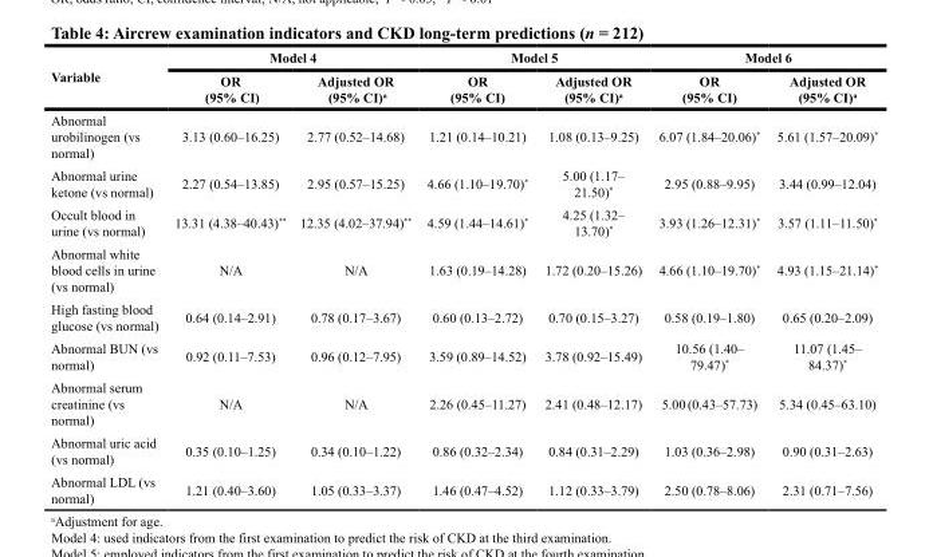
<table><thead><tr><td rowspan="2">Variable</td><td colspan="2">Model 4</td><td colspan="2">Model 5</td><td colspan="2">Model 6</td></tr><tr><td>OR (95% CI)</td><td>Adjusted OR (95% CI)a</td><td>OR (95% CI)</td><td>Adjusted OR (95% CI)a</td><td>OR (95% CI)</td><td>Adjusted OR (95% CI)a</td></tr></thead><tbody><tr><td>Abnormal urobilinogen (vs normal)</td><td>3.13 (0.60–16.25)</td><td>2.77 (0.52–14.68)</td><td>1.21 (0.14–10.21)</td><td>1.08 (0.13–9.25)</td><td>6.07 (1.84–20.06)*</td><td>5.61 (1.57–20.09)*</td></tr><tr><td>Abnormal urine ketone (vs normal)</td><td>2.27 (0.54–13.85)</td><td>2.95 (0.57–15.25)</td><td>4.66 (1.10–19.70)*</td><td>5.00 (1.17– 21.50)*</td><td>2.95 (0.88–9.95)</td><td>3.44 (0.99–12.04)</td></tr><tr><td>Occult blood in urine (vs normal)</td><td>13.31 (4.38–40.43)**</td><td>12.35 (4.02–37.94)**</td><td>4.59 (1.44–14.61)*</td><td>4.25 (1.32– 13.70)*</td><td>3.93 (1.26–12.31)*</td><td>3.57 (1.11–11.50)*</td></tr><tr><td>Abnormal white blood cells in urine (vs normal)</td><td>N/A</td><td>N/A</td><td>1.63 (0.19–14.28)</td><td>1.72 (0.20–15.26)</td><td>4.66 (1.10–19.70)*</td><td>4.93 (1.15–21.14)*</td></tr><tr><td>High fasting blood glucose (vs normal)</td><td>0.64 (0.14–2.91)</td><td>0.78 (0.17–3.67)</td><td>0.60 (0.13–2.72)</td><td>0.70 (0.15–3.27)</td><td>0.58 (0.19–1.80)</td><td>0.65 (0.20–2.09)</td></tr><tr><td>Abnormal BUN (vs normal)</td><td>0.92 (0.11–7.53)</td><td>0.96 (0.12–7.95)</td><td>3.59 (0.89–14.52)</td><td>3.78 (0.92–15.49)</td><td>10.56 (1.40– 79.47)*</td><td>11.07 (1.45– 84.37)*</td></tr><tr><td>Abnormal serum creatinine (vs normal)</td><td>N/A</td><td>N/A</td><td>2.26 (0.45–11.27)</td><td>2.41 (0.48–12.17)</td><td>5.00 (0.43–57.73)</td><td>5.34 (0.45–63.10)</td></tr><tr><td>Abnormal uric acid (vs normal)</td><td>0.35 (0.10–1.25)</td><td>0.34 (0.10–1.22)</td><td>0.86 (0.32–2.34)</td><td>0.84 (0.31–2.29)</td><td>1.03 (0.36–2.98)</td><td>0.90 (0.31–2.63)</td></tr><tr><td>Abnormal LDL (vs normal)</td><td>1.21 (0.40–3.60)</td><td>1.05 (0.33–3.37)</td><td>1.46 (0.47–4.52)</td><td>1.12 (0.33–3.79)</td><td>2.50 (0.78–8.06)</td><td>2.31 (0.71–7.56)</td></tr></tbody></table>